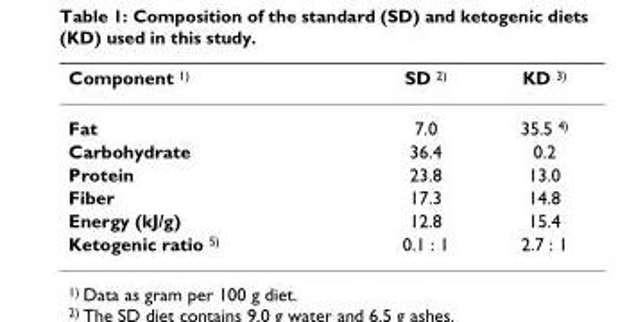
<table><thead><tr><td>Component <sup>1)</sup></td><td>SD <sup>2)</sup></td><td>KD <sup>3)</sup></td></tr></thead><tbody><tr><td>Fat</td><td>7.0</td><td>35.5 <sup>4)</sup></td></tr><tr><td>Carbohydrate</td><td>36.4</td><td>0.2</td></tr><tr><td>Protein</td><td>23.8</td><td>13.0</td></tr><tr><td>Fiber</td><td>17.3</td><td>14.8</td></tr><tr><td>Energy (kJ/g)</td><td>12.8</td><td>15.4</td></tr><tr><td>Ketogenic ratio <sup>5)</sup></td><td>0.1 : 1</td><td>2.7 : 1</td></tr></tbody></table>